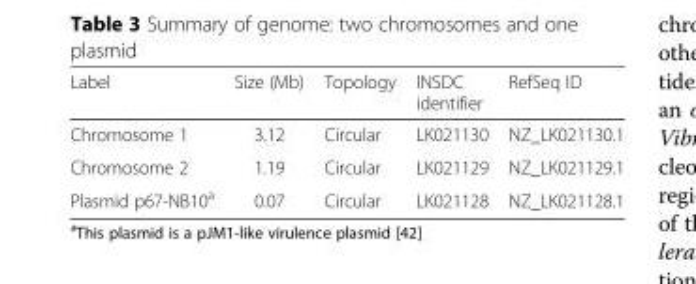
<table><thead><tr><td>Label</td><td>Size (Mb)</td><td>Topology</td><td>INSDC identifier</td><td>RefSeq ID</td></tr></thead><tbody><tr><td>Chromosome 1</td><td>3.12</td><td>Circular</td><td>LK021130</td><td>NZ_LK021130.1</td></tr><tr><td>Chromosome 2</td><td>1.19</td><td>Circular</td><td>LK021129</td><td>NZ_LK021129.1</td></tr><tr><td>Plasmid p67-NB10<sup>a</sup></td><td>0.07</td><td>Circular</td><td>LK021128</td><td>NZ_LK021128.1</td></tr></tbody></table>